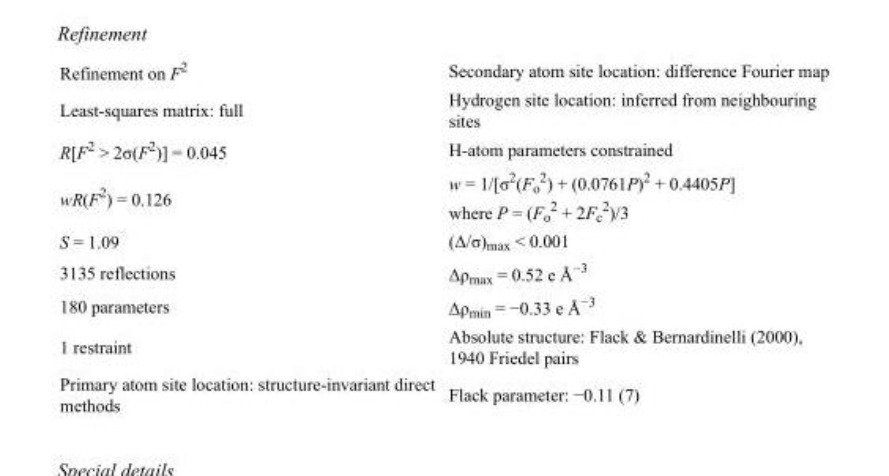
<table><tbody><tr><td>Refinement on F<sup>2</sup></td><td>Secondary atom site location: difference Fourier map</td></tr><tr><td>Least-squares matrix: full</td><td>Hydrogen site location: inferred from neighbouring sites</td></tr><tr><td>R[F<sup>2</sup> &gt; 2σ(F<sup>2</sup>)] = 0.045</td><td>H-atom parameters constrained</td></tr><tr><td>wR(F<sup>2</sup>) = 0.126</td><td>w = 1/[σ<sup>2</sup>(F<sub>o</sub> <sup>2</sup>) + (0.0761P)<sup>2</sup> + 0.4405P] where P = (F<sub>o</sub> <sup>2</sup> + 2F<sub>c</sub> <sup>2</sup>)/3</td></tr><tr><td>S = 1.09</td><td>(Δ/σ)<sub>max</sub> &lt; 0.001</td></tr><tr><td>3135 reflections</td><td>Δρ<sub>max</sub> = 0.52 e Å<sup>−3</sup></td></tr><tr><td>180 parameters</td><td>Δρ<sub>min</sub> = −0.33 e Å<sup>−3</sup></td></tr><tr><td>1 restraint</td><td>Absolute structure: Flack &amp; Bernardinelli (2000), 1940 Friedel pairs</td></tr><tr><td>Primary atom site location: structure-invariant direct methods</td><td>Flack parameter: −0.11 (7)</td></tr></tbody></table>